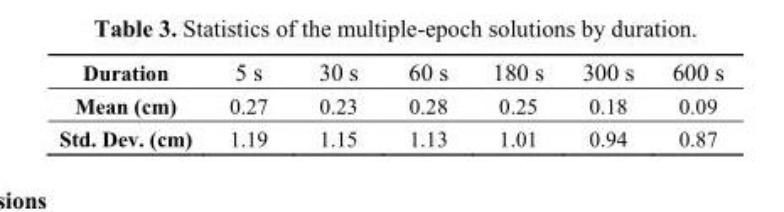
<table><tbody><tr><td>Duration</td><td>5 s</td><td>30 s</td><td>60 s</td><td>180 s</td><td>300 s</td><td>600 s</td></tr><tr><td>Mean (cm)</td><td>0.27</td><td>0.23</td><td>0.28</td><td>0.25</td><td>0.18</td><td>0.09</td></tr><tr><td>Std. Dev. (cm)</td><td>1.19</td><td>1.15</td><td>1.13</td><td>1.01</td><td>0.94</td><td>0.87</td></tr></tbody></table>